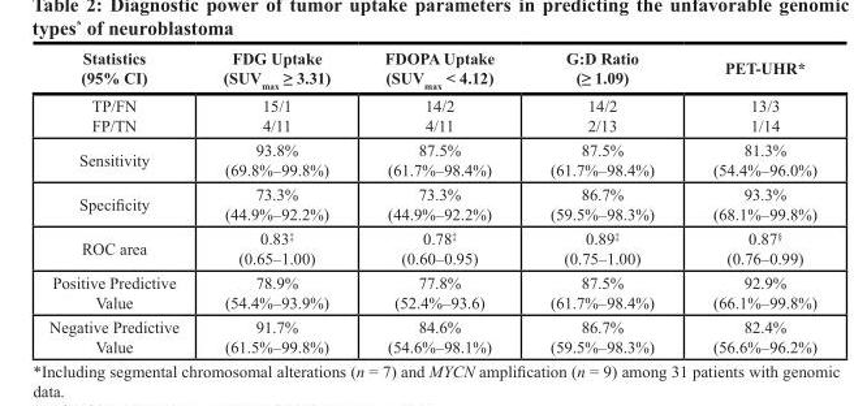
<table><thead><tr><td>Statistics (95% CI)</td><td>FDG Uptake (SUV<sub>max</sub> ≥ 3.31)</td><td>FDOPA Uptake (SUV<sub>max</sub> &lt; 4.12)</td><td>G:D Ratio (≥ 1.09)</td><td>PET-UHR*</td></tr></thead><tbody><tr><td>TP/FN FP/TN</td><td>15/1 4/11</td><td>14/2 4/11</td><td>14/2 2/13</td><td>13/3 1/14</td></tr><tr><td>Sensitivity</td><td>93.8% (69.8%–99.8%)</td><td>87.5% (61.7%–98.4%)</td><td>87.5% (61.7%–98.4%)</td><td>81.3% (54.4%–96.0%)</td></tr><tr><td>Specificity</td><td>73.3% (44.9%–92.2%)</td><td>73.3% (44.9%–92.2%)</td><td>86.7% (59.5%–98.3%)</td><td>93.3% (68.1%–99.8%)</td></tr><tr><td>ROC area</td><td>0.83<sup>‡</sup> (0.65–1.00)</td><td>0.78<sup>‡</sup> (0.60–0.95)</td><td>0.89<sup>‡</sup> (0.75–1.00)</td><td>0.87<sup>§</sup> (0.76–0.99)</td></tr><tr><td>Positive Predictive Value</td><td>78.9% (54.4%–93.9%)</td><td>77.8% (52.4%–93.6)</td><td>87.5% (61.7%–98.4%)</td><td>92.9% (66.1%–99.8%)</td></tr><tr><td>Negative Predictive Value</td><td>91.7% (61.5%–99.8%)</td><td>84.6% (54.6%–98.1%)</td><td>86.7% (59.5%–98.3%)</td><td>82.4% (56.6%–96.2%)</td></tr></tbody></table>